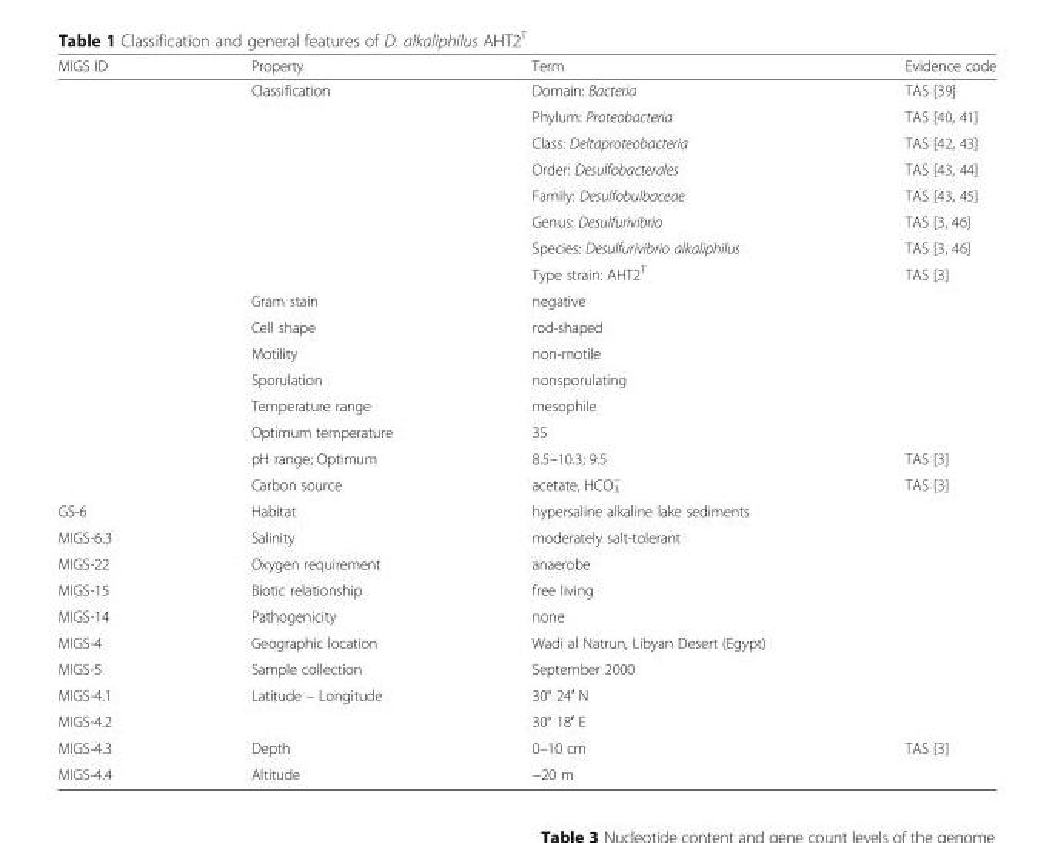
<table><thead><tr><td>MIGS ID</td><td>Property</td><td>Term</td><td>Evidence code</td></tr></thead><tbody><tr><td rowspan="8"></td><td rowspan="8">Classification</td><td>Domain: Bacteria</td><td>TAS [39]</td></tr><tr><td>Phylum: Proteobacteria</td><td>TAS [40, 41]</td></tr><tr><td>Class: Deltaproteobacteria</td><td>TAS [42, 43]</td></tr><tr><td>Order: Desulfobacterales</td><td>TAS [43, 44]</td></tr><tr><td>Family: Desulfobulbaceae</td><td>TAS [43, 45]</td></tr><tr><td>Genus: Desulfurivibrio</td><td>TAS [3, 46]</td></tr><tr><td>Species: Desulfurivibrio alkaliphilus</td><td>TAS [3, 46]</td></tr><tr><td>Type strain: AHT2<sup>T</sup></td><td>TAS [3]</td></tr><tr><td rowspan="6"></td><td>Gram stain</td><td>negative</td><td rowspan="6"></td></tr><tr><td>Cell shape</td><td>rod-shaped</td></tr><tr><td>Motility</td><td>non-motile</td></tr><tr><td>Sporulation</td><td>nonsporulating</td></tr><tr><td>Temperature range</td><td>mesophile</td></tr><tr><td>Optimum temperature</td><td>35</td></tr><tr><td rowspan="2"></td><td>pH range; Optimum</td><td>8.5–10.3; 9.5</td><td>TAS [3]</td></tr><tr><td>Carbon source</td><td>acetate, HCO<sub>3</sub> <sup>−</sup></td><td>TAS [3]</td></tr><tr><td>GS-6</td><td>Habitat</td><td>hypersaline alkaline lake sediments</td><td rowspan="8"></td></tr><tr><td>MIGS-6.3</td><td>Salinity</td><td>moderately salt-tolerant</td></tr><tr><td>MIGS-22</td><td>Oxygen requirement</td><td>anaerobe</td></tr><tr><td>MIGS-15</td><td>Biotic relationship</td><td>free living</td></tr><tr><td>MIGS-14</td><td>Pathogenicity</td><td>none</td></tr><tr><td>MIGS-4</td><td>Geographic location</td><td>Wadi al Natrun, Libyan Desert (Egypt)</td></tr><tr><td>MIGS-5</td><td>Sample collection</td><td>September 2000</td></tr><tr><td>MIGS-4.1</td><td>Latitude – Longitude</td><td>30° 24′ N</td></tr><tr><td>MIGS-4.2</td><td></td><td>30° 18′ E</td><td></td></tr><tr><td>MIGS-4.3</td><td>Depth</td><td>0–10 cm</td><td>TAS [3]</td></tr><tr><td>MIGS-4.4</td><td>Altitude</td><td>−20 m</td><td></td></tr></tbody></table>